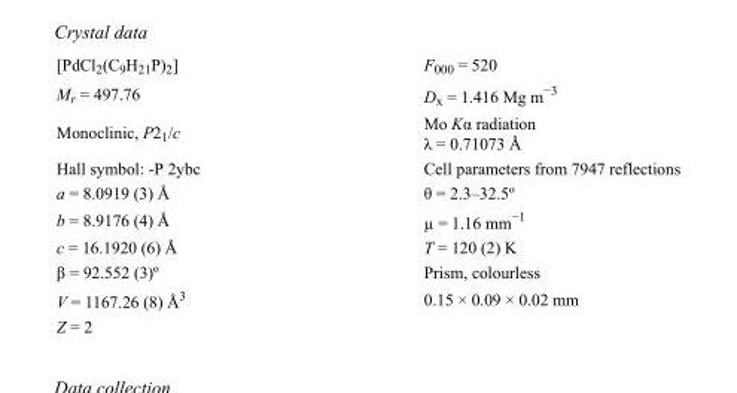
<table><tbody><tr><td>[PdCl<sub>2</sub>(C<sub>9</sub>H<sub>21</sub>P)<sub>2</sub>]</td><td>F<sub>000</sub> = 520</td></tr><tr><td>M<sub>r</sub> = 497.76</td><td>D<sub>x</sub> = 1.416 Mg m<sup>−3</sup></td></tr><tr><td>Monoclinic, P2<sub>1</sub>/c</td><td>Mo Kα radiation λ = 0.71073 Å</td></tr><tr><td>Hall symbol: -P 2ybc</td><td>Cell parameters from 7947 reflections</td></tr><tr><td>a = 8.0919 (3) Å</td><td>θ = 2.3–32.5º</td></tr><tr><td>b = 8.9176 (4) Å</td><td>µ = 1.16 mm<sup>−1</sup></td></tr><tr><td>c = 16.1920 (6) Å</td><td>T = 120 (2) K</td></tr><tr><td>β = 92.552 (3)º</td><td>Prism, colourless</td></tr><tr><td>V = 1167.26 (8) Å<sup>3</sup></td><td>0.15 × 0.09 × 0.02 mm</td></tr><tr><td>Z = 2</td><td></td></tr></tbody></table>